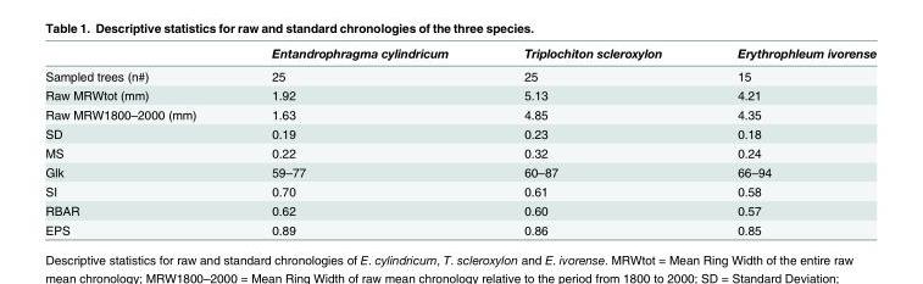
<table><thead><tr><td></td><td>Entandrophragma cylindricum</td><td>Triplochiton scleroxylon</td><td>Erythrophleum ivorense</td></tr></thead><tbody><tr><td>Sampled trees (n#)</td><td>25</td><td>25</td><td>15</td></tr><tr><td>Raw MRWtot (mm)</td><td>1.92</td><td>5.13</td><td>4.21</td></tr><tr><td>Raw MRW1800–2000 (mm)</td><td>1.63</td><td>4.85</td><td>4.35</td></tr><tr><td>SD</td><td>0.19</td><td>0.23</td><td>0.18</td></tr><tr><td>MS</td><td>0.22</td><td>0.32</td><td>0.24</td></tr><tr><td>Glk</td><td>59–77</td><td>60–87</td><td>66–94</td></tr><tr><td>SI</td><td>0.70</td><td>0.61</td><td>0.58</td></tr><tr><td>RBAR</td><td>0.62</td><td>0.60</td><td>0.57</td></tr><tr><td>EPS</td><td>0.89</td><td>0.86</td><td>0.85</td></tr></tbody></table>